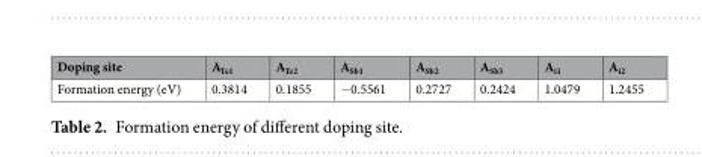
<table><thead><tr><td>Doping site</td><td>A<sub>Te1</sub></td><td>A<sub>Te2</sub></td><td>A<sub>Sb1</sub></td><td>A<sub>Sb2</sub></td><td>A<sub>Sb3</sub></td><td>A<sub>i1</sub></td><td>A<sub>i2</sub></td></tr></thead><tbody><tr><td>Formation energy (eV)</td><td>0.3814</td><td>0.1855</td><td>−0.5561</td><td>0.2727</td><td>0.2424</td><td>1.0479</td><td>1.2455</td></tr></tbody></table>